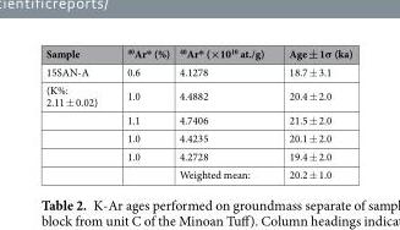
<table><thead><tr><td>Sample</td><td><sup>40</sup>Ar* (%)</td><td><sup>40</sup>Ar* (×10<sup>10</sup> at./g)</td><td>Age ± 1σ (ka)</td></tr></thead><tbody><tr><td>15SAN-A</td><td>0.6</td><td>4.1278</td><td>18.7 ± 3.1</td></tr><tr><td rowspan="5">(K%: 2.11 ± 0.02)</td><td>1.0</td><td>4.4882</td><td>20.4 ± 2.0</td></tr><tr><td>1.1</td><td>4.7406</td><td>21.5 ± 2.0</td></tr><tr><td>1.0</td><td>4.4235</td><td>20.1 ± 2.0</td></tr><tr><td>1.0</td><td>4.2728</td><td>19.4 ± 2.0</td></tr><tr><td></td><td>Weighted mean:</td><td>20.2 ± 1.0</td></tr></tbody></table>